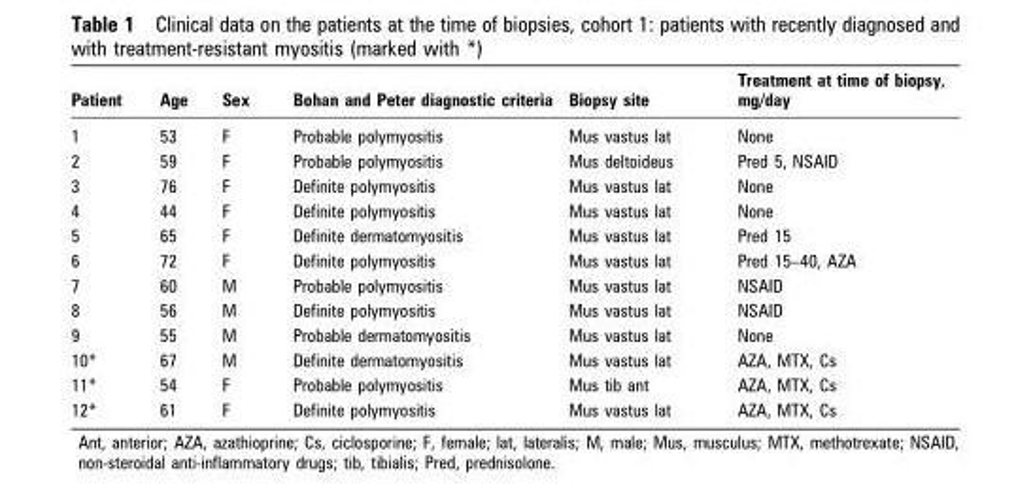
<table><thead><tr><td>Patient</td><td>Age</td><td>Sex</td><td>Bohan and Peter diagnostic criteria</td><td>Biopsy site</td><td>Treatment at time of biopsy, mg/day</td></tr></thead><tbody><tr><td>1</td><td>53</td><td>F</td><td>Probable polymyositis</td><td>Mus vastus lat</td><td>None</td></tr><tr><td>2</td><td>59</td><td>F</td><td>Probable polymyositis</td><td>Mus deltoideus</td><td>Pred 5, NSAID</td></tr><tr><td>3</td><td>76</td><td>F</td><td>Definite polymyositis</td><td>Mus vastus lat</td><td>None</td></tr><tr><td>4</td><td>44</td><td>F</td><td>Definite polymyositis</td><td>Mus vastus lat</td><td>None</td></tr><tr><td>5</td><td>65</td><td>F</td><td>Definite dermatomyositis</td><td>Mus vastus lat</td><td>Pred 15</td></tr><tr><td>6</td><td>72</td><td>F</td><td>Definite polymyositis</td><td>Mus vastus lat</td><td>Pred 15–40, AZA</td></tr><tr><td>7</td><td>60</td><td>M</td><td>Probable polymyositis</td><td>Mus vastus lat</td><td>NSAID</td></tr><tr><td>8</td><td>56</td><td>M</td><td>Definite polymyositis</td><td>Mus vastus lat</td><td>NSAID</td></tr><tr><td>9</td><td>55</td><td>M</td><td>Probable dermatomyositis</td><td>Mus vastus lat</td><td>None</td></tr><tr><td>10*</td><td>67</td><td>M</td><td>Definite dermatomyositis</td><td>Mus vastus lat</td><td>AZA, MTX, Cs</td></tr><tr><td>11*</td><td>54</td><td>F</td><td>Probable polymyositis</td><td>Mus tib ant</td><td>AZA, MTX, Cs</td></tr><tr><td>12*</td><td>61</td><td>F</td><td>Definite polymyositis</td><td>Mus vastus lat</td><td>AZA, MTX, Cs</td></tr></tbody></table>